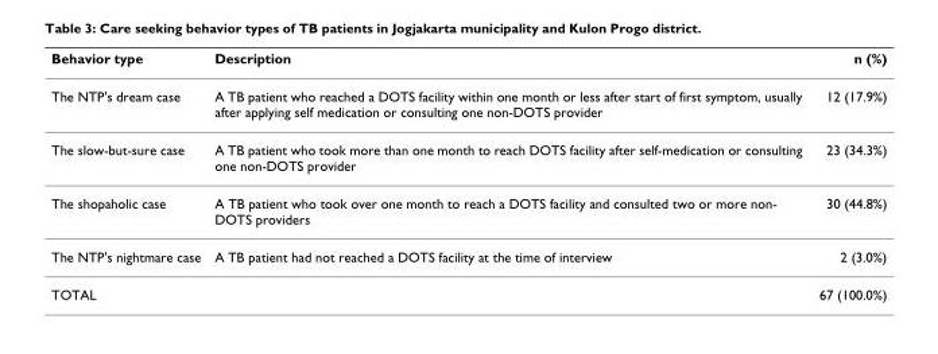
<table><thead><tr><td>Behavior type</td><td>Description</td><td>n (%)</td></tr></thead><tbody><tr><td>The NTP&#x27;s dream case</td><td>A TB patient who reached a DOTS facility within one month or less after start of first symptom, usually after applying self medication or consulting one non-DOTS provider</td><td>12 (17.9%)</td></tr><tr><td>The slow-but-sure case</td><td>A TB patient who took more than one month to reach DOTS facility after self-medication or consulting one non-DOTS provider</td><td>23 (34.3%)</td></tr><tr><td>The shopaholic case</td><td>A TB patient who took over one month to reach a DOTS facility and consulted two or more non- DOTS providers</td><td>30 (44.8%)</td></tr><tr><td>The NTP&#x27;s nightmare case</td><td>A TB patient had not reached a DOTS facility at the time of interview</td><td>2 (3.0%)</td></tr><tr><td>TOTAL</td><td></td><td>67 (100.0%)</td></tr></tbody></table>